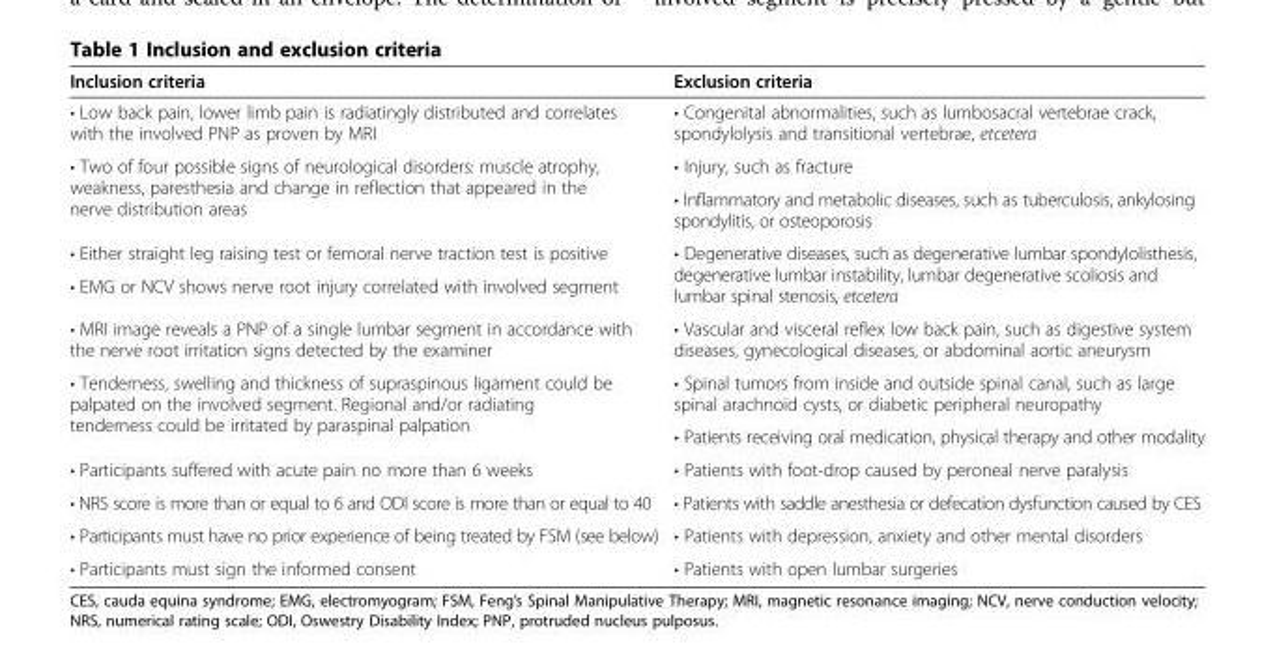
<table><thead><tr><td>Inclusion criteria</td><td>Exclusion criteria</td></tr></thead><tbody><tr><td>• Low back pain, lower limb pain is radiatingly distributed and correlates with the involved PNP as proven by MRI</td><td>• Congenital abnormalities, such as lumbosacral vertebrae crack, spondylolysis and transitional vertebrae, etcetera</td></tr><tr><td rowspan="2">• Two of four possible signs of neurological disorders: muscle atrophy, weakness, paresthesia and change in reflection that appeared in the nerve distribution areas</td><td>• Injury, such as fracture</td></tr><tr><td>• Inflammatory and metabolic diseases, such as tuberculosis, ankylosing spondylitis, or osteoporosis</td></tr><tr><td>• Either straight leg raising test or femoral nerve traction test is positive</td><td rowspan="2">• Degenerative diseases, such as degenerative lumbar spondylolisthesis, degenerative lumbar instability, lumbar degenerative scoliosis and lumbar spinal stenosis, etcetera</td></tr><tr><td>• EMG or NCV shows nerve root injury correlated with involved segment</td></tr><tr><td>• MRI image reveals a PNP of a single lumbar segment in accordance with the nerve root irritation signs detected by the examiner</td><td>• Vascular and visceral reflex low back pain, such as digestive system diseases, gynecological diseases, or abdominal aortic aneurysm</td></tr><tr><td rowspan="2">• Tenderness, swelling and thickness of supraspinous ligament could be palpated on the involved segment. Regional and/or radiating tenderness could be irritated by paraspinal palpation</td><td>• Spinal tumors from inside and outside spinal canal, such as large spinal arachnoid cysts, or diabetic peripheral neuropathy</td></tr><tr><td>• Patients receiving oral medication, physical therapy and other modality</td></tr><tr><td>• Participants suffered with acute pain no more than 6 weeks</td><td>• Patients with foot-drop caused by peroneal nerve paralysis</td></tr><tr><td>• NRS score is more than or equal to 6 and ODI score is more than or equal to 40</td><td>• Patients with saddle anesthesia or defecation dysfunction caused by CES</td></tr><tr><td>• Participants must have no prior experience of being treated by FSM (see below)</td><td>• Patients with depression, anxiety and other mental disorders</td></tr><tr><td>• Participants must sign the informed consent</td><td>• Patients with open lumbar surgeries</td></tr></tbody></table>